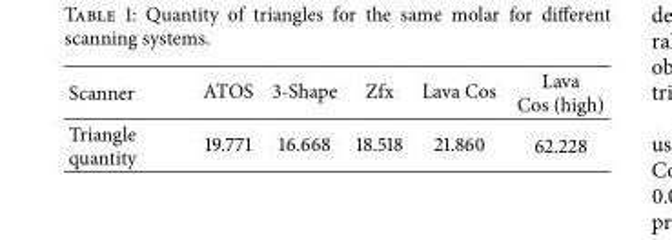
<table><tbody><tr><td>Scanner</td><td>ATOS</td><td>3-Shape</td><td>Zfx</td><td>Lava Cos</td><td>Lava Cos (high)</td></tr><tr><td>Triangle quantity</td><td>19.771</td><td>16.668</td><td>18.518</td><td>21.860</td><td>62.228</td></tr></tbody></table>